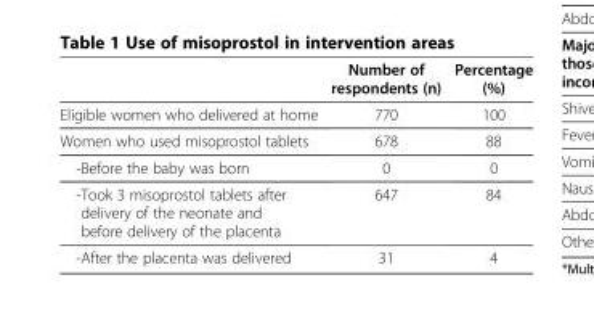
<table><thead><tr><td></td><td>Number of respondents (n)</td><td>Percentage (%)</td></tr></thead><tbody><tr><td>Eligible women who delivered at home</td><td>770</td><td>100</td></tr><tr><td>Women who used misoprostol tablets</td><td>678</td><td>88</td></tr><tr><td>-Before the baby was born</td><td>0</td><td>0</td></tr><tr><td>-Took 3 misoprostol tablets after delivery of the neonate and before delivery of the placenta</td><td>647</td><td>84</td></tr><tr><td>-After the placenta was delivered</td><td>31</td><td>4</td></tr></tbody></table>